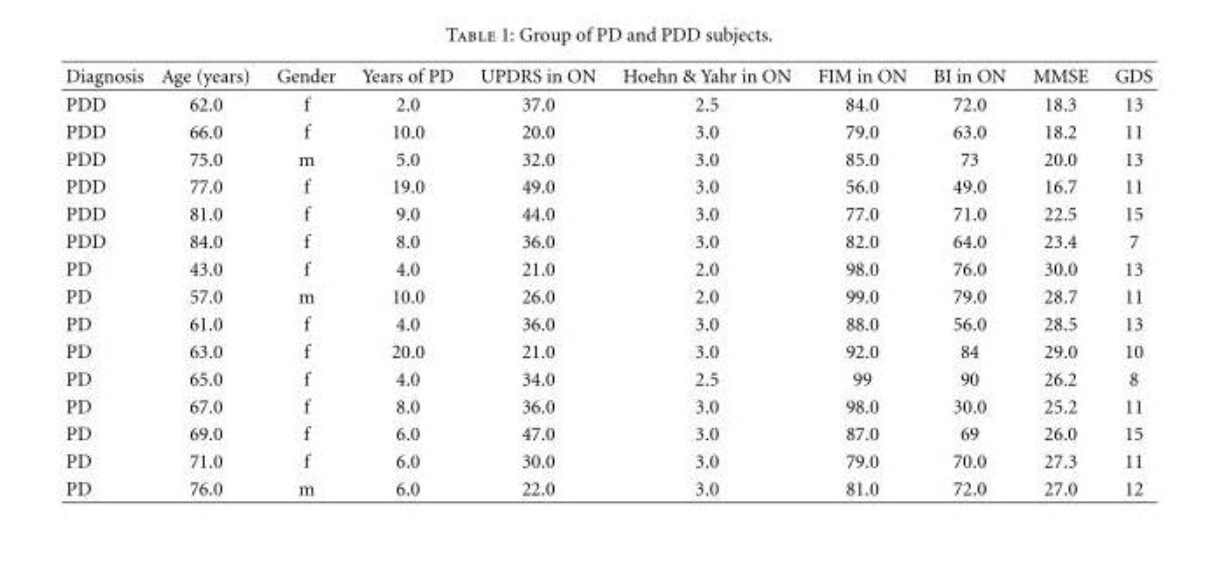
<table><thead><tr><td>Diagnosis</td><td>Age (years)</td><td>Gender</td><td>Years of PD</td><td>UPDRS in ON</td><td>Hoehn &amp; Yahr in ON</td><td>FIM in ON</td><td>BI in ON</td><td>MMSE</td><td>GDS</td></tr></thead><tbody><tr><td>PDD</td><td>62.0</td><td>f</td><td>2.0</td><td>37.0</td><td>2.5</td><td>84.0</td><td>72.0</td><td>18.3</td><td>13</td></tr><tr><td>PDD</td><td>66.0</td><td>f</td><td>10.0</td><td>20.0</td><td>3.0</td><td>79.0</td><td>63.0</td><td>18.2</td><td>11</td></tr><tr><td>PDD</td><td>75.0</td><td>m</td><td>5.0</td><td>32.0</td><td>3.0</td><td>85.0</td><td>73</td><td>20.0</td><td>13</td></tr><tr><td>PDD</td><td>77.0</td><td>f</td><td>19.0</td><td>49.0</td><td>3.0</td><td>56.0</td><td>49.0</td><td>16.7</td><td>11</td></tr><tr><td>PDD</td><td>81.0</td><td>f</td><td>9.0</td><td>44.0</td><td>3.0</td><td>77.0</td><td>71.0</td><td>22.5</td><td>15</td></tr><tr><td>PDD</td><td>84.0</td><td>f</td><td>8.0</td><td>36.0</td><td>3.0</td><td>82.0</td><td>64.0</td><td>23.4</td><td>7</td></tr><tr><td>PD</td><td>43.0</td><td>f</td><td>4.0</td><td>21.0</td><td>2.0</td><td>98.0</td><td>76.0</td><td>30.0</td><td>13</td></tr><tr><td>PD</td><td>57.0</td><td>m</td><td>10.0</td><td>26.0</td><td>2.0</td><td>99.0</td><td>79.0</td><td>28.7</td><td>11</td></tr><tr><td>PD</td><td>61.0</td><td>f</td><td>4.0</td><td>36.0</td><td>3.0</td><td>88.0</td><td>56.0</td><td>28.5</td><td>13</td></tr><tr><td>PD</td><td>63.0</td><td>f</td><td>20.0</td><td>21.0</td><td>3.0</td><td>92.0</td><td>84</td><td>29.0</td><td>10</td></tr><tr><td>PD</td><td>65.0</td><td>f</td><td>4.0</td><td>34.0</td><td>2.5</td><td>99</td><td>90</td><td>26.2</td><td>8</td></tr><tr><td>PD</td><td>67.0</td><td>f</td><td>8.0</td><td>36.0</td><td>3.0</td><td>98.0</td><td>30.0</td><td>25.2</td><td>11</td></tr><tr><td>PD</td><td>69.0</td><td>f</td><td>6.0</td><td>47.0</td><td>3.0</td><td>87.0</td><td>69</td><td>26.0</td><td>15</td></tr><tr><td>PD</td><td>71.0</td><td>f</td><td>6.0</td><td>30.0</td><td>3.0</td><td>79.0</td><td>70.0</td><td>27.3</td><td>11</td></tr><tr><td>PD</td><td>76.0</td><td>m</td><td>6.0</td><td>22.0</td><td>3.0</td><td>81.0</td><td>72.0</td><td>27.0</td><td>12</td></tr></tbody></table>